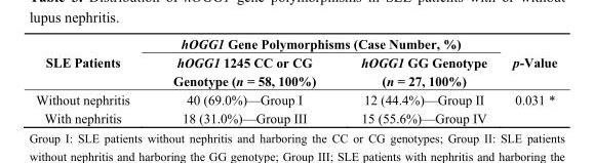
<table><thead><tr><td rowspan="2">SLE Patients</td><td colspan="2">hOGG1 Gene Polymorphisms (Case Number, %)</td><td rowspan="2">p-Value</td></tr><tr><td>hOGG1 1245 CC or CG Genotype (n = 58, 100%)</td><td>hOGG1 GG Genotype (n = 27, 100%)</td></tr></thead><tbody><tr><td>Without nephritis</td><td>40 (69.0%)—Group I</td><td>12 (44.4%)—Group II</td><td>0.031 *</td></tr><tr><td>With nephritis</td><td>18 (31.0%)—Group III</td><td>15 (55.6%)—Group IV</td><td></td></tr></tbody></table>